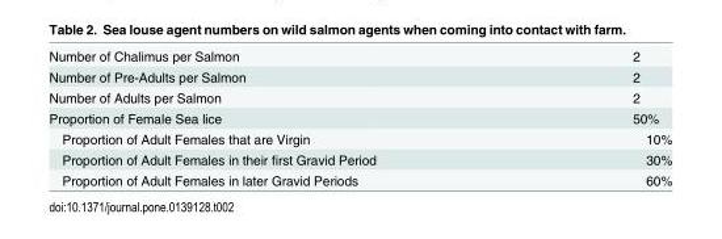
<table><tbody><tr><td>Number of Chalimus per Salmon</td><td>2</td></tr><tr><td>Number of Pre-Adults per Salmon</td><td>2</td></tr><tr><td>Number of Adults per Salmon</td><td>2</td></tr><tr><td>Proportion of Female Sea lice</td><td>50%</td></tr><tr><td>Proportion of Adult Females that are Virgin</td><td>10%</td></tr><tr><td>Proportion of Adult Females in their first Gravid Period</td><td>30%</td></tr><tr><td>Proportion of Adult Females in later Gravid Periods</td><td>60%</td></tr></tbody></table>